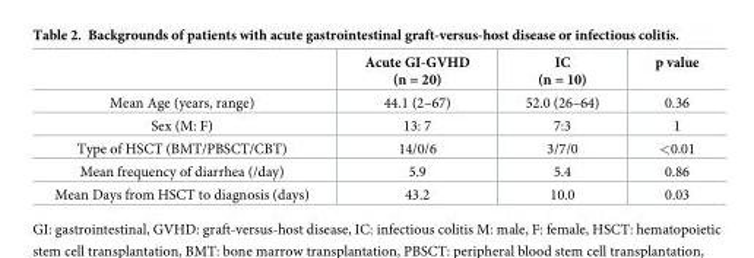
<table><thead><tr><td></td><td>Acute GI-GVHD (n = 20)</td><td>IC (n = 10)</td><td>p value</td></tr></thead><tbody><tr><td>Mean Age (years, range)</td><td>44.1 (2–67)</td><td>52.0 (26–64)</td><td>0.36</td></tr><tr><td>Sex (M: F)</td><td>13: 7</td><td>7:3</td><td>1</td></tr><tr><td>Type of HSCT (BMT/PBSCT/CBT)</td><td>14/0/6</td><td>3/7/0</td><td>&lt;0.01</td></tr><tr><td>Mean frequency of diarrhea (/day)</td><td>5.9</td><td>5.4</td><td>0.86</td></tr><tr><td>Mean Days from HSCT to diagnosis (days)</td><td>43.2</td><td>10.0</td><td>0.03</td></tr></tbody></table>